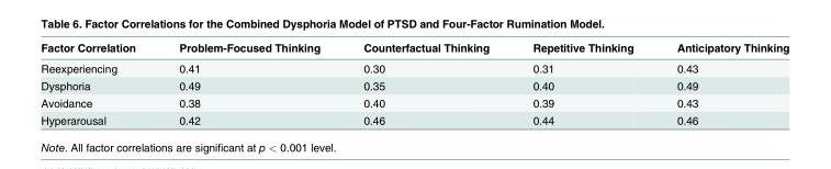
<table><thead><tr><td>Factor Correlation</td><td>Problem-Focused Thinking</td><td>Counterfactual Thinking</td><td>Repetitive Thinking</td><td>Anticipatory Thinking</td></tr></thead><tbody><tr><td>Reexperiencing</td><td>0.41</td><td>0.30</td><td>0.31</td><td>0.43</td></tr><tr><td>Dysphoria</td><td>0.49</td><td>0.35</td><td>0.40</td><td>0.49</td></tr><tr><td>Avoidance</td><td>0.38</td><td>0.40</td><td>0.39</td><td>0.43</td></tr><tr><td>Hyperarousal</td><td>0.42</td><td>0.46</td><td>0.44</td><td>0.46</td></tr></tbody></table>